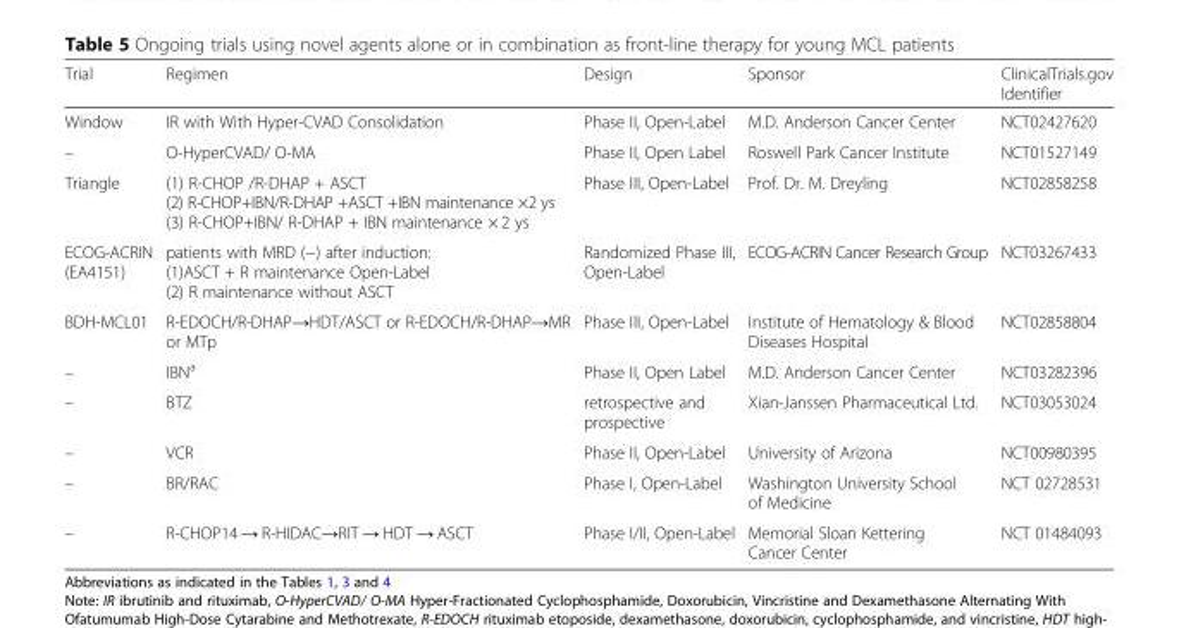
<table><thead><tr><td>Trial</td><td>Regimen</td><td>Design</td><td>Sponsor</td><td>ClinicalTrials.gov Identifier</td></tr></thead><tbody><tr><td>Window</td><td>IR with With Hyper-CVAD Consolidation</td><td>Phase II, Open-Label</td><td>M.D. Anderson Cancer Center</td><td>NCT02427620</td></tr><tr><td>–</td><td>O-HyperCVAD/ O-MA</td><td>Phase II, Open Label</td><td>Roswell Park Cancer Institute</td><td>NCT01527149</td></tr><tr><td>Triangle</td><td>(1) R-CHOP /R-DHAP + ASCT (2) R-CHOP+IBN/R-DHAP +ASCT +IBN maintenance ×2 ys (3) R-CHOP+IBN/ R-DHAP + IBN maintenance × 2 ys</td><td>Phase III, Open-Label</td><td>Prof. Dr. M. Dreyling</td><td>NCT02858258</td></tr><tr><td>ECOG-ACRIN (EA4151)</td><td>patients with MRD (−) after induction: (1)ASCT + R maintenance Open-Label (2) R maintenance without ASCT</td><td>Randomized Phase III, Open-Label</td><td>ECOG-ACRIN Cancer Research Group</td><td>NCT03267433</td></tr><tr><td>BDH-MCL01</td><td>R-EDOCH/R-DHAP→HDT/ASCT or R-EDOCH/R-DHAP→MR or MTp</td><td>Phase III, Open-Label</td><td>Institute of Hematology &amp; Blood Diseases Hospital</td><td>NCT02858804</td></tr><tr><td>–</td><td>IBN<sup>a</sup></td><td>Phase II, Open Label</td><td>M.D. Anderson Cancer Center</td><td>NCT03282396</td></tr><tr><td>–</td><td>BTZ</td><td>retrospective and prospective</td><td>Xian-Janssen Pharmaceutical Ltd.</td><td>NCT03053024</td></tr><tr><td>–</td><td>VCR</td><td>Phase II, Open-Label</td><td>University of Arizona</td><td>NCT00980395</td></tr><tr><td>–</td><td>BR/RAC</td><td>Phase I, Open-Label</td><td>Washington University School of Medicine</td><td>NCT 02728531</td></tr><tr><td>–</td><td>R-CHOP14 → R-HIDAC→RIT → HDT → ASCT</td><td>Phase I/II, Open-Label</td><td>Memorial Sloan Kettering Cancer Center</td><td>NCT 01484093</td></tr></tbody></table>